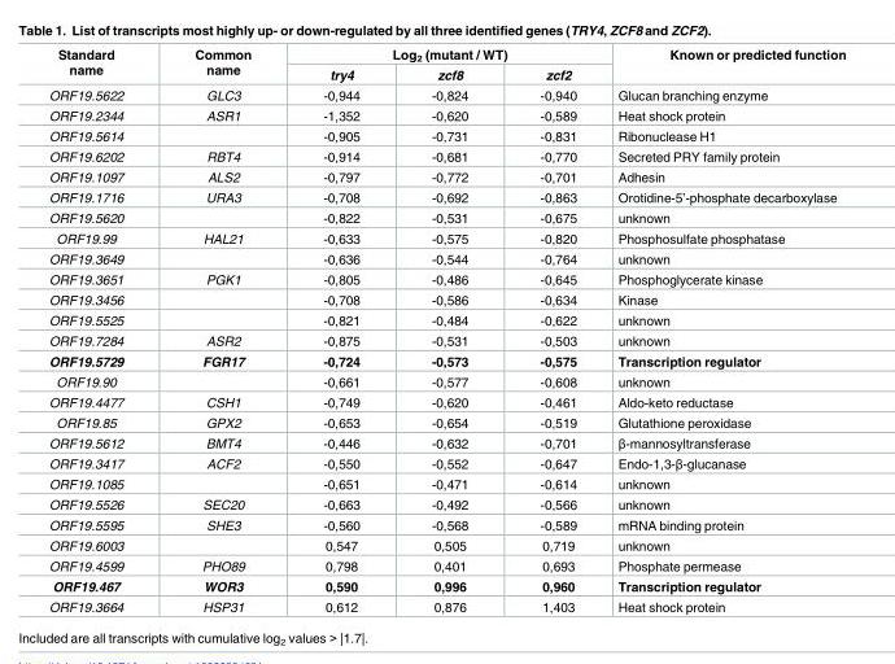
<table><thead><tr><td rowspan="2">Standard name</td><td rowspan="2">Common name</td><td colspan="3">Log<sub>2</sub> (mutant / WT)</td><td rowspan="2">Known or predicted function</td></tr><tr><td>try4</td><td>zcf8</td><td>zcf2</td></tr></thead><tbody><tr><td>ORF19.5622</td><td>GLC3</td><td>-0,944</td><td>-0,824</td><td>-0,940</td><td>Glucan branching enzyme</td></tr><tr><td>ORF19.2344</td><td>ASR1</td><td>-1,352</td><td>-0,620</td><td>-0,589</td><td>Heat shock protein</td></tr><tr><td>ORF19.5614</td><td></td><td>-0,905</td><td>-0,731</td><td>-0,831</td><td>Ribonuclease H1</td></tr><tr><td>ORF19.6202</td><td>RBT4</td><td>-0,914</td><td>-0,681</td><td>-0,770</td><td>Secreted PRY family protein</td></tr><tr><td>ORF19.1097</td><td>ALS2</td><td>-0,797</td><td>-0,772</td><td>-0,701</td><td>Adhesin</td></tr><tr><td>ORF19.1716</td><td>URA3</td><td>-0,708</td><td>-0,692</td><td>-0,863</td><td>Orotidine-5’-phosphate decarboxylase</td></tr><tr><td>ORF19.5620</td><td></td><td>-0,822</td><td>-0,531</td><td>-0,675</td><td>unknown</td></tr><tr><td>ORF19.99</td><td>HAL21</td><td>-0,633</td><td>-0,575</td><td>-0,820</td><td>Phosphosulfate phosphatase</td></tr><tr><td>ORF19.3649</td><td></td><td>-0,636</td><td>-0,544</td><td>-0,764</td><td>unknown</td></tr><tr><td>ORF19.3651</td><td>PGK1</td><td>-0,805</td><td>-0,486</td><td>-0,645</td><td>Phosphoglycerate kinase</td></tr><tr><td>ORF19.3456</td><td></td><td>-0,708</td><td>-0,586</td><td>-0,634</td><td>Kinase</td></tr><tr><td>ORF19.5525</td><td></td><td>-0,821</td><td>-0,484</td><td>-0,622</td><td>unknown</td></tr><tr><td>ORF19.7284</td><td>ASR2</td><td>-0,875</td><td>-0,531</td><td>-0,503</td><td>unknown</td></tr><tr><td>ORF19.5729</td><td>FGR17</td><td>-0,724</td><td>-0,573</td><td>-0,575</td><td>Transcription regulator</td></tr><tr><td>ORF19.90</td><td></td><td>-0,661</td><td>-0,577</td><td>-0,608</td><td>unknown</td></tr><tr><td>ORF19.4477</td><td>CSH1</td><td>-0,749</td><td>-0,620</td><td>-0,461</td><td>Aldo-keto reductase</td></tr><tr><td>ORF19.85</td><td>GPX2</td><td>-0,653</td><td>-0,654</td><td>-0,519</td><td>Glutathione peroxidase</td></tr><tr><td>ORF19.5612</td><td>BMT4</td><td>-0,446</td><td>-0,632</td><td>-0,701</td><td>β-mannosyltransferase</td></tr><tr><td>ORF19.3417</td><td>ACF2</td><td>-0,550</td><td>-0,552</td><td>-0,647</td><td>Endo-1,3-β-glucanase</td></tr><tr><td>ORF19.1085</td><td></td><td>-0,651</td><td>-0,471</td><td>-0,614</td><td>unknown</td></tr><tr><td>ORF19.5526</td><td>SEC20</td><td>-0,663</td><td>-0,492</td><td>-0,566</td><td>unknown</td></tr><tr><td>ORF19.5595</td><td>SHE3</td><td>-0,560</td><td>-0,568</td><td>-0,589</td><td>mRNA binding protein</td></tr><tr><td>ORF19.6003</td><td></td><td>0,547</td><td>0,505</td><td>0,719</td><td>unknown</td></tr><tr><td>ORF19.4599</td><td>PHO89</td><td>0,798</td><td>0,401</td><td>0,693</td><td>Phosphate permease</td></tr><tr><td>ORF19.467</td><td>WOR3</td><td>0,590</td><td>0,996</td><td>0,960</td><td>Transcription regulator</td></tr><tr><td>ORF19.3664</td><td>HSP31</td><td>0,612</td><td>0,876</td><td>1,403</td><td>Heat shock protein</td></tr></tbody></table>